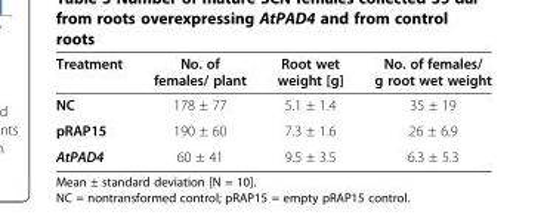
<table><thead><tr><td>Treatment</td><td>No. of females/ plant</td><td>Root wet weight [g]</td><td>No. of females/ g root wet weight</td></tr></thead><tbody><tr><td>NC</td><td>178 ± 77</td><td>5.1 ± 1.4</td><td>35 ± 19</td></tr><tr><td>pRAP15</td><td>190 ± 60</td><td>7.3 ± 1.6</td><td>26 ± 6.9</td></tr><tr><td>AtPAD4</td><td>60 ± 41</td><td>9.5 ± 3.5</td><td>6.3 ± 5.3</td></tr></tbody></table>